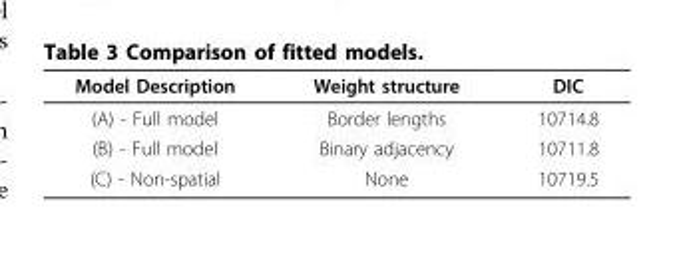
<table><thead><tr><td>Model Description</td><td>Weight structure</td><td>DIC</td></tr></thead><tbody><tr><td>(A) - Full model</td><td>Border lengths</td><td>10714.8</td></tr><tr><td>(B) - Full model</td><td>Binary adjacency</td><td>10711.8</td></tr><tr><td>(C) - Non-spatial</td><td>None</td><td>10719.5</td></tr></tbody></table>